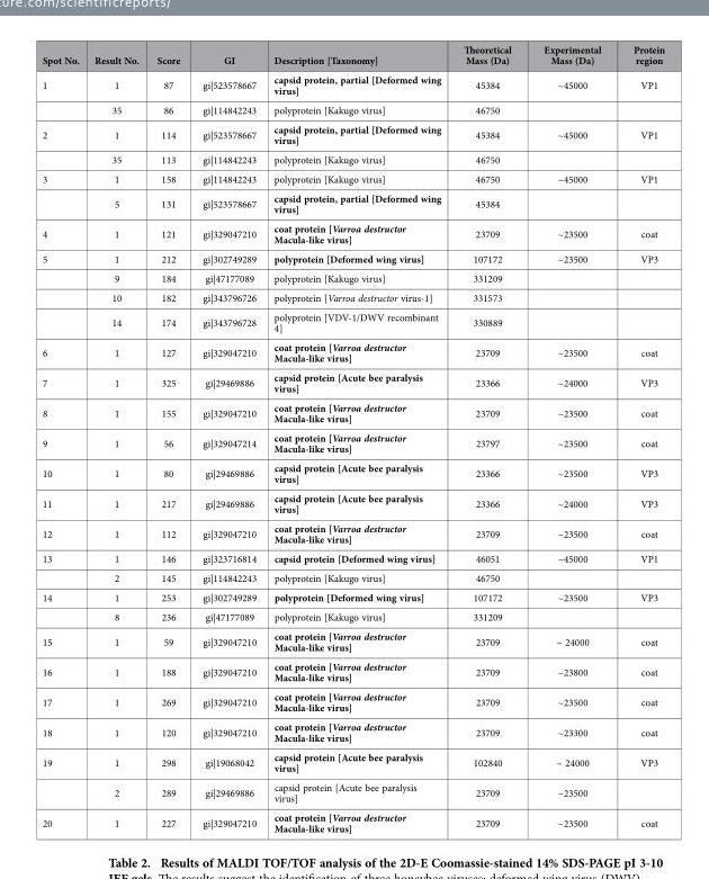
<table><thead><tr><td>Spot No.</td><td>Result No.</td><td>Score</td><td>GI</td><td>Description [Taxonomy]</td><td>Theoretical Mass (Da)</td><td>Experimental Mass (Da)</td><td>Protein region</td></tr></thead><tbody><tr><td rowspan="2">1</td><td>1</td><td>87</td><td>gi|523578667</td><td>capsid protein, partial [Deformed wing virus]</td><td>45384</td><td>~45000</td><td>VP1</td></tr><tr><td>35</td><td>86</td><td>gi|114842243</td><td>polyprotein [Kakugo virus]</td><td>46750</td><td></td><td></td></tr><tr><td rowspan="2">2</td><td>1</td><td>114</td><td>gi|523578667</td><td>capsid protein, partial [Deformed wing virus]</td><td>45384</td><td>~45000</td><td>VP1</td></tr><tr><td>35</td><td>113</td><td>gi|114842243</td><td>polyprotein [Kakugo virus]</td><td>46750</td><td></td><td></td></tr><tr><td rowspan="2">3</td><td>1</td><td>158</td><td>gi|114842243</td><td>polyprotein [Kakugo virus]</td><td>46750</td><td>~45000</td><td>VP1</td></tr><tr><td>5</td><td>131</td><td>gi|523578667</td><td>capsid protein, partial [Deformed wing virus]</td><td>45384</td><td></td><td></td></tr><tr><td>4</td><td>1</td><td>121</td><td>gi|329047210</td><td>coat protein [Varroa destructor Macula-like virus]</td><td>23709</td><td>~23500</td><td>coat</td></tr><tr><td rowspan="4">5</td><td>1</td><td>212</td><td>gi|302749289</td><td>polyprotein [Deformed wing virus]</td><td>107172</td><td>~23500</td><td>VP3</td></tr><tr><td>9</td><td>184</td><td>gi|47177089</td><td>polyprotein [Kakugo virus]</td><td>331209</td><td></td><td></td></tr><tr><td>10</td><td>182</td><td>gi|343796726</td><td>polyprotein [Varroa destructor virus-1]</td><td>331573</td><td></td><td></td></tr><tr><td>14</td><td>174</td><td>gi|343796728</td><td>polyprotein [VDV-1/DWV recombinant 4]</td><td>330889</td><td></td><td></td></tr><tr><td>6</td><td>1</td><td>127</td><td>gi|329047210</td><td>coat protein [Varroa destructor Macula-like virus]</td><td>23709</td><td>~23500</td><td>coat</td></tr><tr><td>7</td><td>1</td><td>325</td><td>gi|29469886</td><td>capsid protein [Acute bee paralysis virus]</td><td>23366</td><td>~24000</td><td>VP3</td></tr><tr><td>8</td><td>1</td><td>155</td><td>gi|329047210</td><td>coat protein [Varroa destructor Macula-like virus]</td><td>23709</td><td>~23500</td><td>coat</td></tr><tr><td>9</td><td>1</td><td>56</td><td>gi|329047214</td><td>coat protein [Varroa destructor Macula-like virus]</td><td>23797</td><td>~23500</td><td>coat</td></tr><tr><td>10</td><td>1</td><td>80</td><td>gi|29469886</td><td>capsid protein [Acute bee paralysis virus]</td><td>23366</td><td>~23500</td><td>VP3</td></tr><tr><td>11</td><td>1</td><td>217</td><td>gi|29469886</td><td>capsid protein [Acute bee paralysis virus]</td><td>23366</td><td>~24000</td><td>VP3</td></tr><tr><td>12</td><td>1</td><td>112</td><td>gi|329047210</td><td>coat protein [Varroa destructor Macula-like virus]</td><td>23709</td><td>~23500</td><td>coat</td></tr><tr><td rowspan="2">13</td><td>1</td><td>146</td><td>gi|323716814</td><td>capsid protein [Deformed wing virus]</td><td>46051</td><td>~45000</td><td>VP1</td></tr><tr><td>2</td><td>145</td><td>gi|114842243</td><td>polyprotein [Kakugo virus]</td><td>46750</td><td></td><td></td></tr><tr><td rowspan="2">14</td><td>1</td><td>253</td><td>gi|302749289</td><td>polyprotein [Deformed wing virus]</td><td>107172</td><td>~23500</td><td>VP3</td></tr><tr><td>8</td><td>236</td><td>gi|47177089</td><td>polyprotein [Kakugo virus]</td><td>331209</td><td></td><td></td></tr><tr><td>15</td><td>1</td><td>59</td><td>gi|329047210</td><td>coat protein [Varroa destructor Macula-like virus]</td><td>23709</td><td>~ 24000</td><td>coat</td></tr><tr><td>16</td><td>1</td><td>188</td><td>gi|329047210</td><td>coat protein [Varroa destructor Macula-like virus]</td><td>23709</td><td>~23800</td><td>coat</td></tr><tr><td>17</td><td>1</td><td>269</td><td>gi|329047210</td><td>coat protein [Varroa destructor Macula-like virus]</td><td>23709</td><td>~23500</td><td>coat</td></tr><tr><td>18</td><td>1</td><td>120</td><td>gi|329047210</td><td>coat protein [Varroa destructor Macula-like virus]</td><td>23709</td><td>~23300</td><td>coat</td></tr><tr><td rowspan="2">19</td><td>1</td><td>298</td><td>gi|19068042</td><td>capsid protein [Acute bee paralysis virus]</td><td>102840</td><td>~ 24000</td><td>VP3</td></tr><tr><td>2</td><td>289</td><td>gi|29469886</td><td>capsid protein [Acute bee paralysis virus]</td><td>23709</td><td>~23500</td><td></td></tr><tr><td>20</td><td>1</td><td>227</td><td>gi|329047210</td><td>coat protein [Varroa destructor Macula-like virus]</td><td>23709</td><td>~23500</td><td>coat</td></tr></tbody></table>